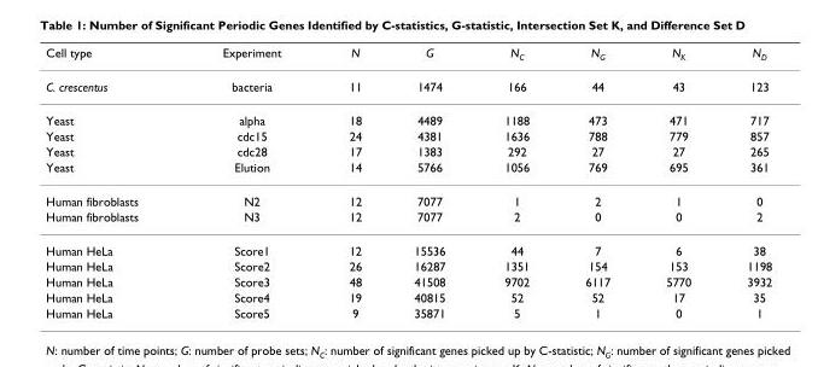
<table><thead><tr><td>Cell type</td><td>Experiment</td><td>N</td><td>G</td><td>N<sub>C</sub></td><td>N<sub>G</sub></td><td>N<sub>K</sub></td><td>N<sub>D</sub></td></tr></thead><tbody><tr><td>C. crescentus</td><td>bacteria</td><td>11</td><td>1474</td><td>166</td><td>44</td><td>43</td><td>123</td></tr><tr><td>Yeast</td><td>alpha</td><td>18</td><td>4489</td><td>1188</td><td>473</td><td>471</td><td>717</td></tr><tr><td>Yeast</td><td>cdc15</td><td>24</td><td>4381</td><td>1636</td><td>788</td><td>779</td><td>857</td></tr><tr><td>Yeast</td><td>cdc28</td><td>17</td><td>1383</td><td>292</td><td>27</td><td>27</td><td>265</td></tr><tr><td>Yeast</td><td>Elution</td><td>14</td><td>5766</td><td>1056</td><td>769</td><td>695</td><td>361</td></tr><tr><td>Human fibroblasts</td><td>N2</td><td>12</td><td>7077</td><td>1</td><td>2</td><td>1</td><td>0</td></tr><tr><td>Human fibroblasts</td><td>N3</td><td>12</td><td>7077</td><td>2</td><td>0</td><td>0</td><td>2</td></tr><tr><td>Human HeLa</td><td>Score1</td><td>12</td><td>15536</td><td>44</td><td>7</td><td>6</td><td>38</td></tr><tr><td>Human HeLa</td><td>Score2</td><td>26</td><td>16287</td><td>1351</td><td>154</td><td>153</td><td>1198</td></tr><tr><td>Human HeLa</td><td>Score3</td><td>48</td><td>41508</td><td>9702</td><td>6117</td><td>5770</td><td>3932</td></tr><tr><td>Human HeLa</td><td>Score4</td><td>19</td><td>40815</td><td>52</td><td>52</td><td>17</td><td>35</td></tr><tr><td>Human HeLa</td><td>Score5</td><td>9</td><td>35871</td><td>5</td><td>1</td><td>0</td><td>1</td></tr></tbody></table>